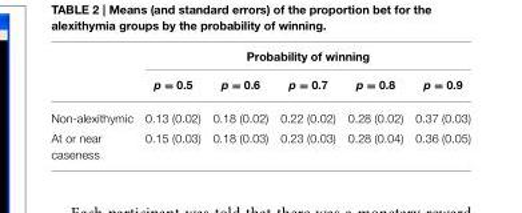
<table><thead><tr><td rowspan="2"></td><td colspan="5">Probability of winning</td></tr><tr><td>p = 0.5</td><td>p = 0.6</td><td>p = 0.7</td><td>p = 0.8</td><td>p = 0.9</td></tr></thead><tbody><tr><td>Non-alexithymic</td><td>0.13 (0.02)</td><td>0.18 (0.02)</td><td>0.22 (0.02)</td><td>0.28 (0.02)</td><td>0.37 (0.03)</td></tr><tr><td>At or near caseness</td><td>0.15 (0.03)</td><td>0.18 (0.03)</td><td>0.23 (0.03)</td><td>0.28 (0.04)</td><td>0.36 (0.05)</td></tr></tbody></table>